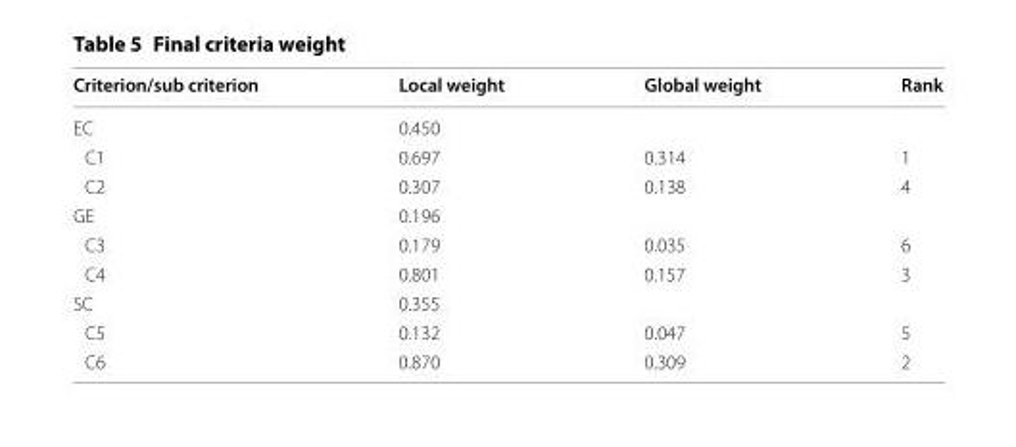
<table><thead><tr><td>Criterion/sub criterion</td><td>Local weight</td><td>Global weight</td><td>Rank</td></tr></thead><tbody><tr><td>EC</td><td>0.450</td><td></td><td></td></tr><tr><td>C1</td><td>0.697</td><td>0.314</td><td>1</td></tr><tr><td>C2</td><td>0.307</td><td>0.138</td><td>4</td></tr><tr><td>GE</td><td>0.196</td><td></td><td></td></tr><tr><td>C3</td><td>0.179</td><td>0.035</td><td>6</td></tr><tr><td>C4</td><td>0.801</td><td>0.157</td><td>3</td></tr><tr><td>SC</td><td>0.355</td><td></td><td></td></tr><tr><td>C5</td><td>0.132</td><td>0.047</td><td>5</td></tr><tr><td>C6</td><td>0.870</td><td>0.309</td><td>2</td></tr></tbody></table>